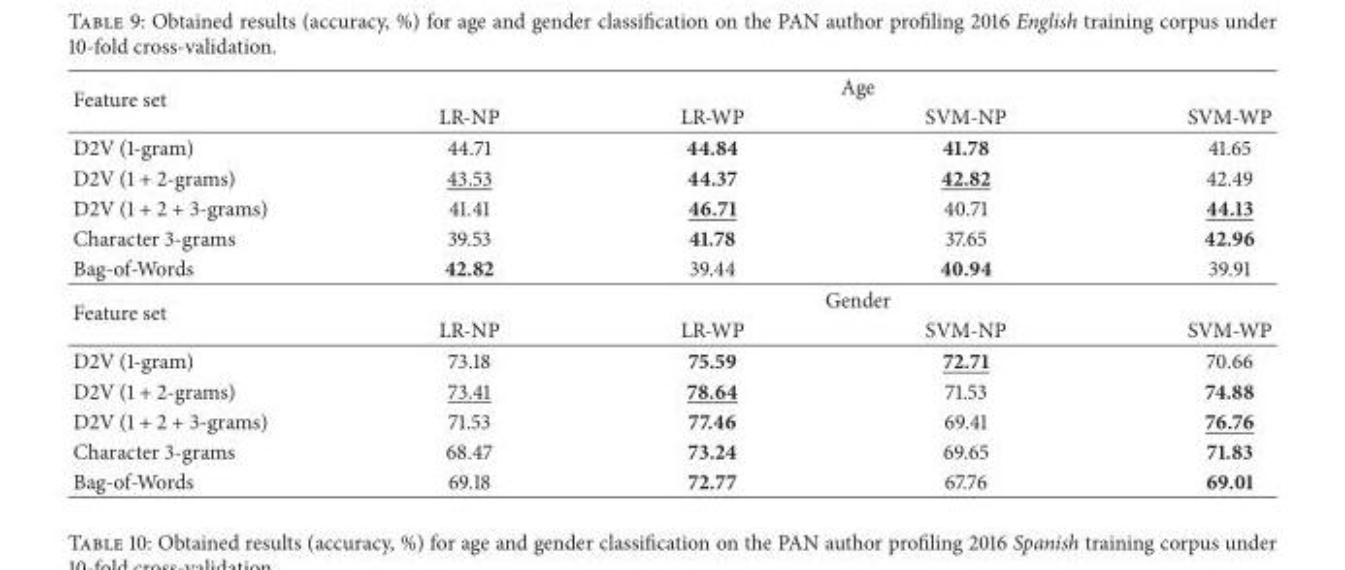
<table><thead><tr><td rowspan="2">Feature set</td><td colspan="4">Age</td></tr><tr><td>LR-NP</td><td>LR-WP</td><td>SVM-NP</td><td>SVM-WP</td></tr></thead><tbody><tr><td>D2V (1-gram)</td><td>44.71</td><td>44.84</td><td>41.78</td><td>41.65</td></tr><tr><td>D2V (1 + 2-grams)</td><td>43.53</td><td>44.37</td><td>42.82</td><td>42.49</td></tr><tr><td>D2V (1 + 2 + 3-grams)</td><td>41.41</td><td>46.71</td><td>40.71</td><td>44.13</td></tr><tr><td>Character 3-grams</td><td>39.53</td><td>41.78</td><td>37.65</td><td>42.96</td></tr><tr><td>Bag-of-Words</td><td>42.82</td><td>39.44</td><td>40.94</td><td>39.91</td></tr><tr><td rowspan="2">Feature set</td><td colspan="4">Gender</td></tr><tr><td>LR-NP</td><td>LR-WP</td><td>SVM-NP</td><td>SVM-WP</td></tr><tr><td>D2V (1-gram)</td><td>73.18</td><td>75.59</td><td>72.71</td><td>70.66</td></tr><tr><td>D2V (1 + 2-grams)</td><td>73.41</td><td>78.64</td><td>71.53</td><td>74.88</td></tr><tr><td>D2V (1 + 2 + 3-grams)</td><td>71.53</td><td>77.46</td><td>69.41</td><td>76.76</td></tr><tr><td>Character 3-grams</td><td>68.47</td><td>73.24</td><td>69.65</td><td>71.83</td></tr><tr><td>Bag-of-Words</td><td>69.18</td><td>72.77</td><td>67.76</td><td>69.01</td></tr></tbody></table>